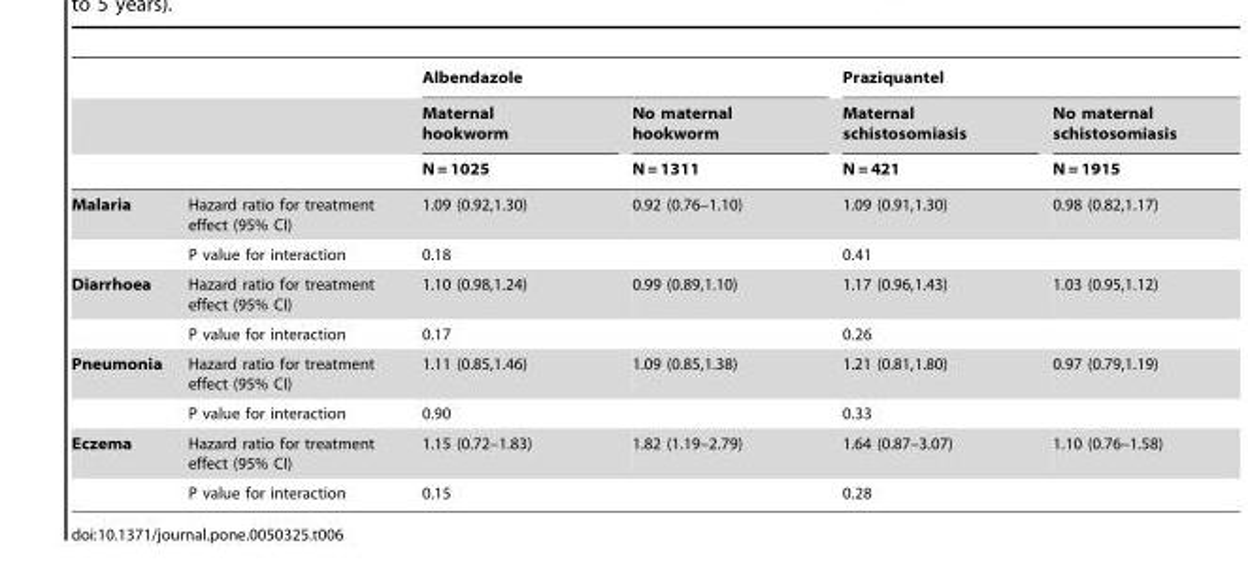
<table><thead><tr><td rowspan="3"></td><td rowspan="3"></td><td colspan="2">Albendazole</td><td colspan="2">Praziquantel</td></tr><tr><td rowspan="2">Maternal hookworm N = 1025</td><td rowspan="2">No maternal hookworm N = 1311</td><td rowspan="2">Maternal schistosomiasis N = 421</td><td rowspan="2">No maternal schistosomiasis N = 1915</td></tr><tr></tr></thead><tbody><tr><td rowspan="2">Malaria</td><td>Hazard ratio for treatment effect (95% CI)</td><td>1.09 (0.92,1.30)</td><td>0.92 (0.76–1.10)</td><td>1.09 (0.91,1.30)</td><td>0.98 (0.82,1.17)</td></tr><tr><td>P value for interaction</td><td>0.18</td><td></td><td>0.41</td><td></td></tr><tr><td rowspan="2">Diarrhoea</td><td>Hazard ratio for treatment effect (95% CI)</td><td>1.10 (0.98,1.24)</td><td>0.99 (0.89,1.10)</td><td>1.17 (0.96,1.43)</td><td>1.03 (0.95,1.12)</td></tr><tr><td>P value for interaction</td><td>0.17</td><td></td><td>0.26</td><td></td></tr><tr><td rowspan="2">Pneumonia</td><td>Hazard ratio for treatment effect (95% CI)</td><td>1.11 (0.85,1.46)</td><td>1.09 (0.85,1.38)</td><td>1.21 (0.81,1.80)</td><td>0.97 (0.79,1.19)</td></tr><tr><td>P value for interaction</td><td>0.90</td><td></td><td>0.33</td><td></td></tr><tr><td rowspan="2">Eczema</td><td>Hazard ratio for treatment effect (95% CI)</td><td>1.15 (0.72–1.83)</td><td>1.82 (1.19–2.79)</td><td>1.64 (0.87–3.07)</td><td>1.10 (0.76–1.58)</td></tr><tr><td>P value for interaction</td><td>0.15</td><td></td><td>0.28</td><td></td></tr></tbody></table>